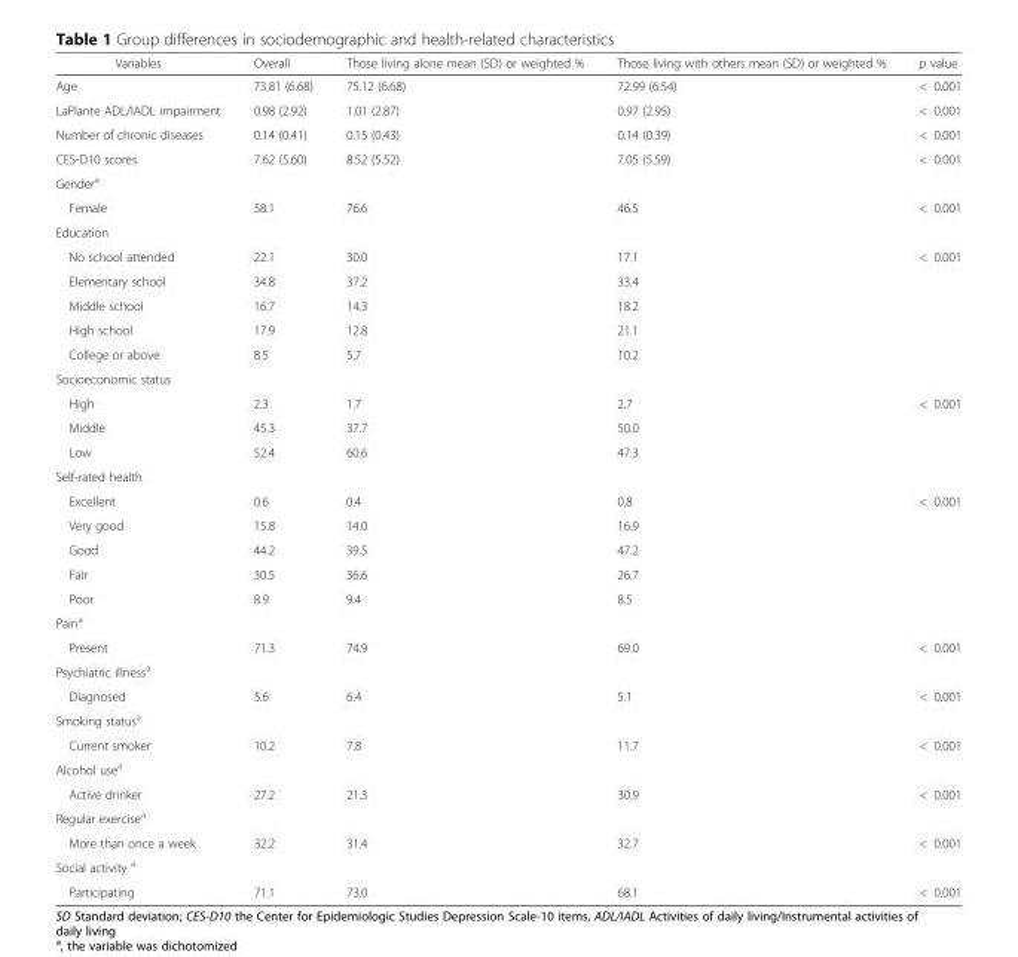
<table><thead><tr><td>Variables</td><td>Overall</td><td>Those living alone mean (SD) or weighted %</td><td>Those living with others mean (SD) or weighted %</td><td>p value</td></tr></thead><tbody><tr><td>Age</td><td>73.81 (6.68)</td><td>75.12 (6.68)</td><td>72.99 (6.54)</td><td>&lt; 0.001</td></tr><tr><td>LaPlante ADL/IADL impairment</td><td>0.98 (2.92)</td><td>1.01 (2.87)</td><td>0.97 (2.95)</td><td>&lt; 0.001</td></tr><tr><td>Number of chronic diseases</td><td>0.14 (0.41)</td><td>0.15 (0.43)</td><td>0.14 (0.39)</td><td>&lt; 0.001</td></tr><tr><td>CES-D10 scores</td><td>7.62 (5.60)</td><td>8.52 (5.52)</td><td>7.05 (5.59)</td><td>&lt; 0.001</td></tr><tr><td colspan="5">Gender<sup>a</sup></td></tr><tr><td>Female</td><td>58.1</td><td>76.6</td><td>46.5</td><td>&lt; 0.001</td></tr><tr><td colspan="5">Education</td></tr><tr><td>No school attended</td><td>22.1</td><td>30.0</td><td>17.1</td><td>&lt; 0.001</td></tr><tr><td>Elementary school</td><td>34.8</td><td>37.2</td><td>33.4</td><td></td></tr><tr><td>Middle school</td><td>16.7</td><td>14.3</td><td>18.2</td><td></td></tr><tr><td>High school</td><td>17.9</td><td>12.8</td><td>21.1</td><td></td></tr><tr><td>College or above</td><td>8.5</td><td>5.7</td><td>10.2</td><td></td></tr><tr><td colspan="5">Socioeconomic status</td></tr><tr><td>High</td><td>2.3</td><td>1.7</td><td>2.7</td><td>&lt; 0.001</td></tr><tr><td>Middle</td><td>45.3</td><td>37.7</td><td>50.0</td><td></td></tr><tr><td>Low</td><td>52.4</td><td>60.6</td><td>47.3</td><td></td></tr><tr><td colspan="5">Self-rated health</td></tr><tr><td>Excellent</td><td>0.6</td><td>0.4</td><td>0.8</td><td>&lt; 0.001</td></tr><tr><td>Very good</td><td>15.8</td><td>14.0</td><td>16.9</td><td></td></tr><tr><td>Good</td><td>44.2</td><td>39.5</td><td>47.2</td><td></td></tr><tr><td>Fair</td><td>30.5</td><td>36.6</td><td>26.7</td><td></td></tr><tr><td>Poor</td><td>8.9</td><td>9.4</td><td>8.5</td><td></td></tr><tr><td colspan="5">Pain<sup>a</sup></td></tr><tr><td>Present</td><td>71.3</td><td>74.9</td><td>69.0</td><td>&lt; 0.001</td></tr><tr><td colspan="5">Psychiatric illness<sup>a</sup></td></tr><tr><td>Diagnosed</td><td>5.6</td><td>6.4</td><td>5.1</td><td>&lt; 0.001</td></tr><tr><td colspan="5">Smoking status<sup>a</sup></td></tr><tr><td>Current smoker</td><td>10.2</td><td>7.8</td><td>11.7</td><td>&lt; 0.001</td></tr><tr><td colspan="5">Alcohol use<sup>a</sup></td></tr><tr><td>Active drinker</td><td>27.2</td><td>21.3</td><td>30.9</td><td>&lt; 0.001</td></tr><tr><td colspan="5">Regular exercise<sup>a</sup></td></tr><tr><td>More than once a week</td><td>32.2</td><td>31.4</td><td>32.7</td><td>&lt; 0.001</td></tr><tr><td colspan="5">Social activity <sup>a</sup></td></tr><tr><td>Participating</td><td>71.1</td><td>73.0</td><td>68.1</td><td>&lt; 0.001</td></tr></tbody></table>